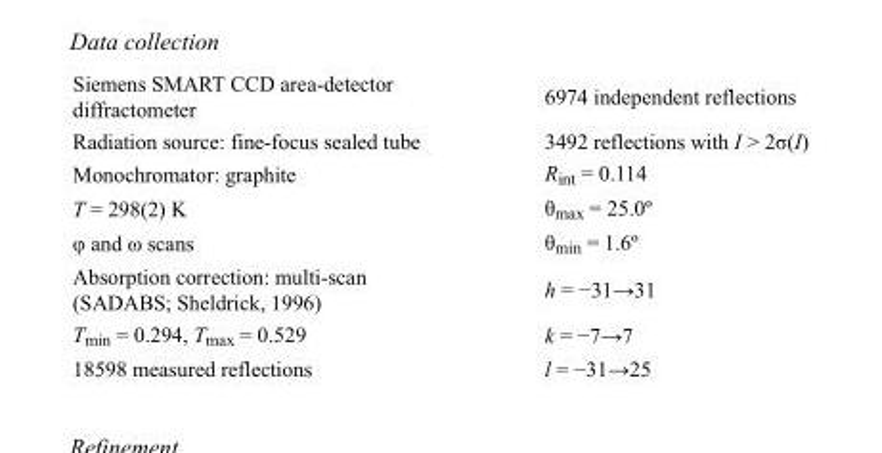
<table><tbody><tr><td>Siemens SMART CCD area-detector diffractometer</td><td>6974 independent reflections</td></tr><tr><td>Radiation source: fine-focus sealed tube</td><td>3492 reflections with I &gt; 2σ(I)</td></tr><tr><td>Monochromator: graphite</td><td>R<sub>int</sub> = 0.114</td></tr><tr><td>T = 298(2) K</td><td>θ<sub>max</sub> = 25.0º</td></tr><tr><td>φ and ω scans</td><td>θ<sub>min</sub> = 1.6º</td></tr><tr><td>Absorption correction: multi-scan (SADABS; Sheldrick, 1996)</td><td>h = −31→31</td></tr><tr><td>T<sub>min</sub> = 0.294, T<sub>max</sub> = 0.529</td><td>k = −7→7</td></tr><tr><td>18598 measured reflections</td><td>l = −31→25</td></tr></tbody></table>